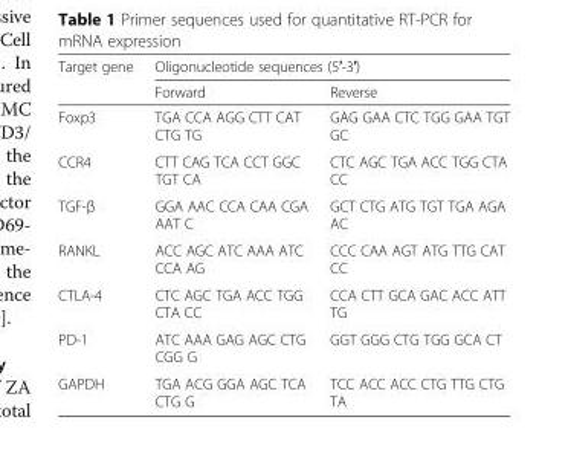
<table><thead><tr><td rowspan="2">Target gene</td><td colspan="2">Oligonucleotide sequences (5′-3′)</td></tr><tr><td>Forward</td><td>Reverse</td></tr></thead><tbody><tr><td>Foxp3</td><td>TGA CCA AGG CTT CAT CTG TG</td><td>GAG GAA CTC TGG GAA TGT GC</td></tr><tr><td>CCR4</td><td>CTT CAG TCA CCT GGC TGT CA</td><td>CTC AGC TGA ACC TGG CTA CC</td></tr><tr><td>TGF-β</td><td>GGA AAC CCA CAA CGA AAT C</td><td>GCT CTG ATG TGT TGA AGA AC</td></tr><tr><td>RANKL</td><td>ACC AGC ATC AAA ATC CCA AG</td><td>CCC CAA AGT ATG TTG CAT CC</td></tr><tr><td>CTLA-4</td><td>CTC AGC TGA ACC TGG CTA CC</td><td>CCA CTT GCA GAC ACC ATT TG</td></tr><tr><td>PD-1</td><td>ATC AAA GAG AGC CTG CGG G</td><td>GGT GGG CTG TGG GCA CT</td></tr><tr><td>GAPDH</td><td>TGA ACG GGA AGC TCA CTG G</td><td>TCC ACC ACC CTG TTG CTG TA</td></tr></tbody></table>